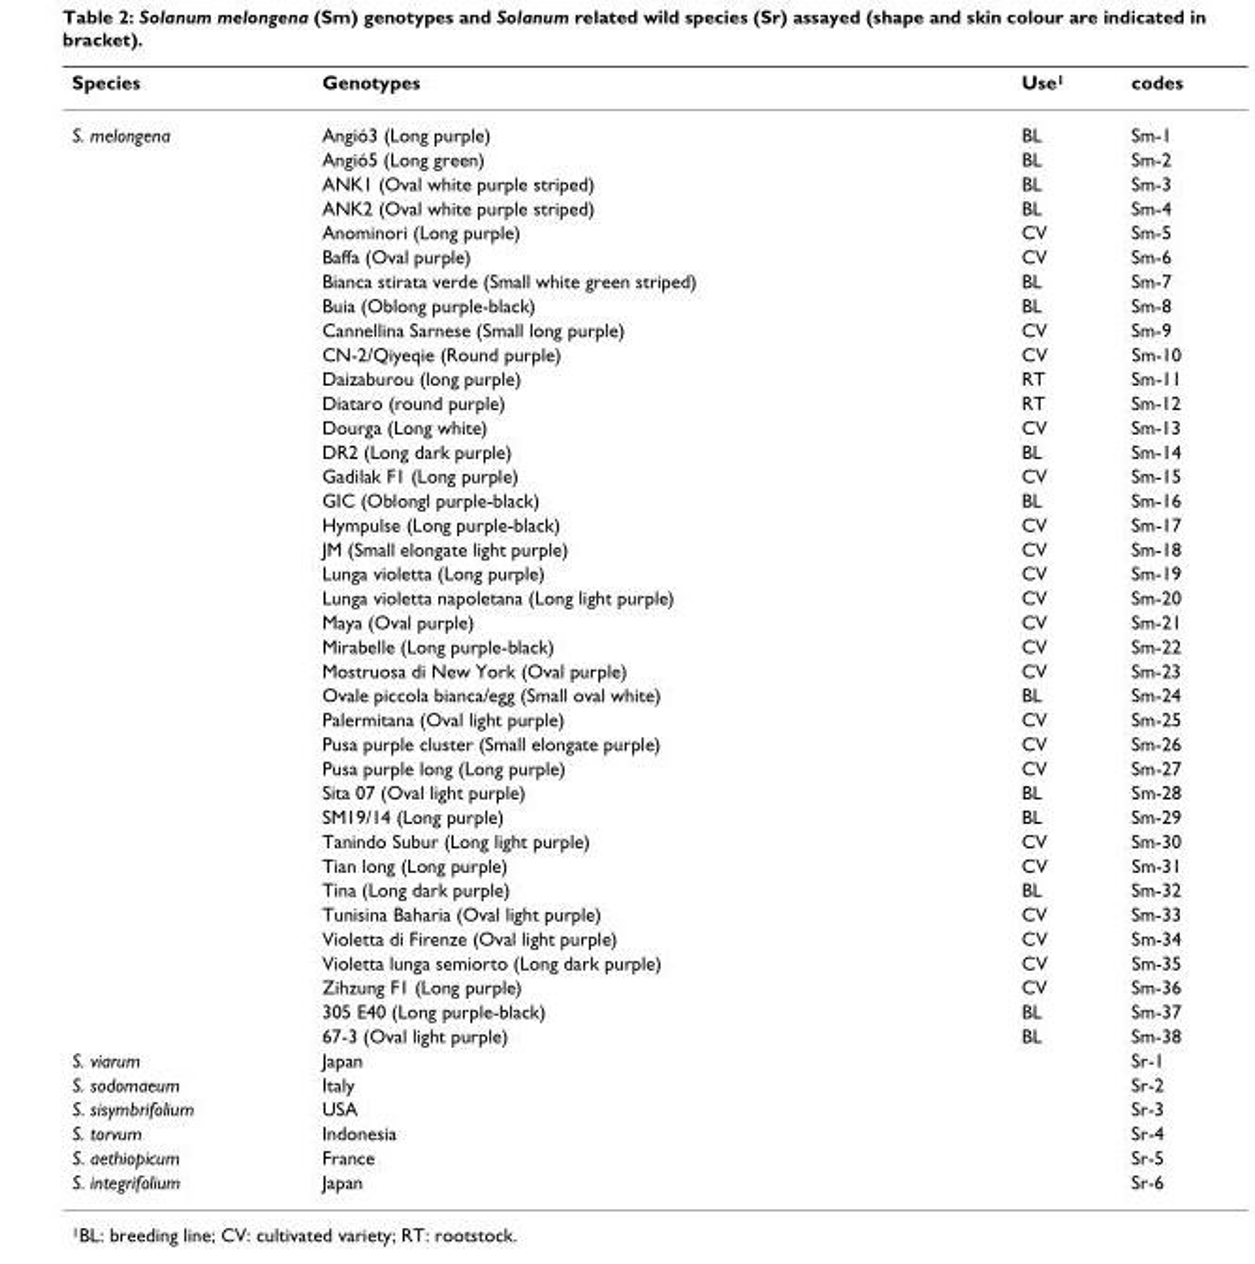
<table><thead><tr><td>Species</td><td>Genotypes</td><td>Use<sup>1</sup></td><td>codes</td></tr></thead><tbody><tr><td rowspan="38">S. melongena</td><td>Angió3 (Long purple)</td><td>BL</td><td>Sm-1</td></tr><tr><td>Angió5 (Long green)</td><td>BL</td><td>Sm-2</td></tr><tr><td>ANK1 (Oval white purple striped)</td><td>BL</td><td>Sm-3</td></tr><tr><td>ANK2 (Oval white purple striped)</td><td>BL</td><td>Sm-4</td></tr><tr><td>Anominori (Long purple)</td><td>CV</td><td>Sm-5</td></tr><tr><td>Baffa (Oval purple)</td><td>CV</td><td>Sm-6</td></tr><tr><td>Bianca stirata verde (Small white green striped)</td><td>BL</td><td>Sm-7</td></tr><tr><td>Buia (Oblong purple-black)</td><td>BL</td><td>Sm-8</td></tr><tr><td>Cannellina Sarnese (Small long purple)</td><td>CV</td><td>Sm-9</td></tr><tr><td>CN-2/Qiyeqie (Round purple)</td><td>CV</td><td>Sm-10</td></tr><tr><td>Daizaburou (long purple)</td><td>RT</td><td>Sm-11</td></tr><tr><td>Diataro (round purple)</td><td>RT</td><td>Sm-12</td></tr><tr><td>Dourga (Long white)</td><td>CV</td><td>Sm-13</td></tr><tr><td>DR2 (Long dark purple)</td><td>BL</td><td>Sm-14</td></tr><tr><td>Gadilak F1 (Long purple)</td><td>CV</td><td>Sm-15</td></tr><tr><td>GIC (Oblongl purple-black)</td><td>BL</td><td>Sm-16</td></tr><tr><td>Hympulse (Long purple-black)</td><td>CV</td><td>Sm-17</td></tr><tr><td>JM (Small elongate light purple)</td><td>CV</td><td>Sm-18</td></tr><tr><td>Lunga violetta (Long purple)</td><td>CV</td><td>Sm-19</td></tr><tr><td>Lunga violetta napoletana (Long light purple)</td><td>CV</td><td>Sm-20</td></tr><tr><td>Maya (Oval purple)</td><td>CV</td><td>Sm-21</td></tr><tr><td>Mirabelle (Long purple-black)</td><td>CV</td><td>Sm-22</td></tr><tr><td>Mostruosa di New York (Oval purple)</td><td>CV</td><td>Sm-23</td></tr><tr><td>Ovale piccola bianca/egg (Small oval white)</td><td>BL</td><td>Sm-24</td></tr><tr><td>Palermitana (Oval light purple)</td><td>CV</td><td>Sm-25</td></tr><tr><td>Pusa purple cluster (Small elongate purple)</td><td>CV</td><td>Sm-26</td></tr><tr><td>Pusa purple long (Long purple)</td><td>CV</td><td>Sm-27</td></tr><tr><td>Sita 07 (Oval light purple)</td><td>BL</td><td>Sm-28</td></tr><tr><td>SM19/14 (Long purple)</td><td>BL</td><td>Sm-29</td></tr><tr><td>Tanindo Subur (Long light purple)</td><td>CV</td><td>Sm-30</td></tr><tr><td>Tian long (Long purple)</td><td>CV</td><td>Sm-31</td></tr><tr><td>Tina (Long dark purple)</td><td>BL</td><td>Sm-32</td></tr><tr><td>Tunisina Baharia (Oval light purple)</td><td>CV</td><td>Sm-33</td></tr><tr><td>Violetta di Firenze (Oval light purple)</td><td>CV</td><td>Sm-34</td></tr><tr><td>Violetta lunga semiorto (Long dark purple)</td><td>CV</td><td>Sm-35</td></tr><tr><td>Zihzung F1 (Long purple)</td><td>CV</td><td>Sm-36</td></tr><tr><td>305 E40 (Long purple-black)</td><td>BL</td><td>Sm-37</td></tr><tr><td>67-3 (Oval light purple)</td><td>BL</td><td>Sm-38</td></tr><tr><td>S. viarum</td><td>Japan</td><td></td><td>Sr-1</td></tr><tr><td>S. sodomaeum</td><td>Italy</td><td></td><td>Sr-2</td></tr><tr><td>S. sisymbrifolium</td><td>USA</td><td></td><td>Sr-3</td></tr><tr><td>S. torvum</td><td>Indonesia</td><td></td><td>Sr-4</td></tr><tr><td>S. aethiopicum</td><td>France</td><td></td><td>Sr-5</td></tr><tr><td>S. integrifolium</td><td>Japan</td><td></td><td>Sr-6</td></tr></tbody></table>